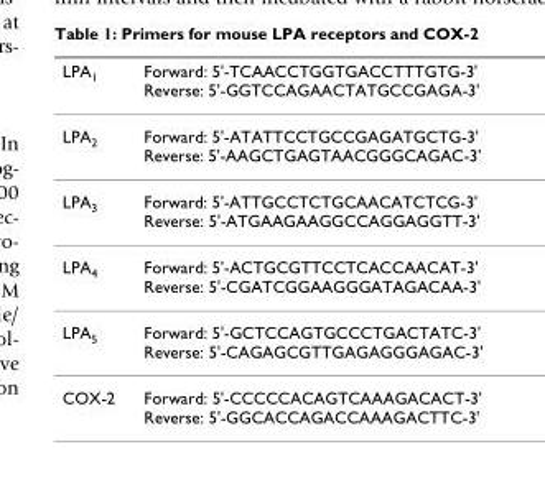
<table><thead><tr><td>LPA1</td><td>Forward: 5&#x27;-TCAACCTGGTGACCTTTGTG-3&#x27; Reverse: 5&#x27;-GGTCCAGAACTATGCCGAGA-3&#x27;</td></tr></thead><tbody><tr><td>LPA2</td><td>Forward: 5&#x27;-ATATTCCTGCCGAGATGCTG-3&#x27; Reverse: 5&#x27;-AAGCTGAGTAACGGGCAGAC-3&#x27;</td></tr><tr><td>LPA3</td><td>Forward: 5&#x27;-ATTGCCTCTGCAACATCTCG-3&#x27; Reverse: 5&#x27;-ATGAAGAAGGCCAGGAGGTT-3&#x27;</td></tr><tr><td>LPA4</td><td>Forward: 5&#x27;-ACTGCGTTCCTCACCAACAT-3&#x27; Reverse: 5&#x27;-CGATCGGAAGGGATAGACAA-3&#x27;</td></tr><tr><td>LPA5</td><td>Forward: 5&#x27;-GCTCCAGTGCCCTGACTATC-3&#x27; Reverse: 5&#x27;-CAGAGCGTTGAGAGGGAGAC-3&#x27;</td></tr><tr><td>COX-2</td><td>Forward: 5&#x27;-CCCCCACAGTCAAAGACACT-3&#x27; Reverse: 5&#x27;-GGCACCAGACCAAAGACTTC-3&#x27;</td></tr></tbody></table>